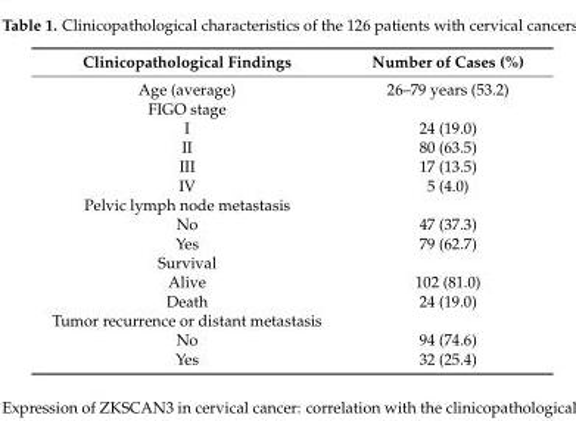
<table><thead><tr><td>Clinicopathological Findings</td><td>Number of Cases (%)</td></tr></thead><tbody><tr><td>Age (average)</td><td>26–79 years (53.2)</td></tr><tr><td colspan="2">FIGO stage</td></tr><tr><td>I</td><td>24 (19.0)</td></tr><tr><td>II</td><td>80 (63.5)</td></tr><tr><td>III</td><td>17 (13.5)</td></tr><tr><td>IV</td><td>5 (4.0)</td></tr><tr><td colspan="2">Pelvic lymph node metastasis</td></tr><tr><td>No</td><td>47 (37.3)</td></tr><tr><td>Yes</td><td>79 (62.7)</td></tr><tr><td colspan="2">Survival</td></tr><tr><td>Alive</td><td>102 (81.0)</td></tr><tr><td>Death</td><td>24 (19.0)</td></tr><tr><td colspan="2">Tumor recurrence or distant metastasis</td></tr><tr><td>No</td><td>94 (74.6)</td></tr><tr><td>Yes</td><td>32 (25.4)</td></tr></tbody></table>